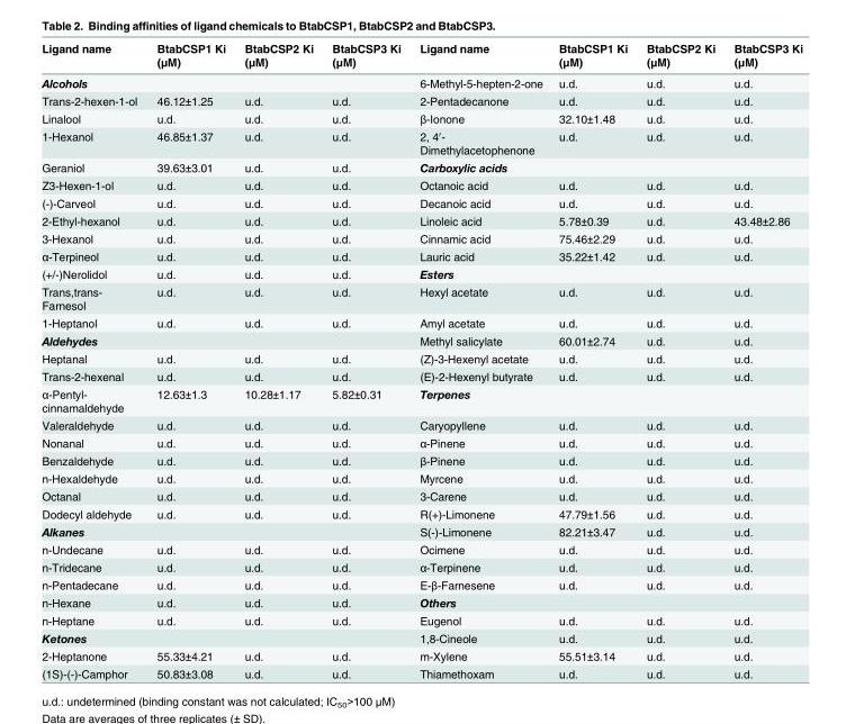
<table><thead><tr><td>Ligand name</td><td>BtabCSP1 Ki (μM)</td><td>BtabCSP2 Ki (μM)</td><td>BtabCSP3 Ki (μM)</td><td>Ligand name</td><td>BtabCSP1 Ki (μM)</td><td>BtabCSP2 Ki (μM)</td><td>BtabCSP3 Ki (μM)</td></tr></thead><tbody><tr><td>Alcohols</td><td></td><td></td><td></td><td>6-Methyl-5-hepten-2-one</td><td>u.d.</td><td>u.d.</td><td>u.d.</td></tr><tr><td>Trans-2-hexen-1-ol</td><td>46.12±1.25</td><td>u.d.</td><td>u.d.</td><td>2-Pentadecanone</td><td>u.d.</td><td>u.d.</td><td>u.d.</td></tr><tr><td>Linalool</td><td>u.d.</td><td>u.d.</td><td>u.d.</td><td>β-Ionone</td><td>32.10±1.48</td><td>u.d.</td><td>u.d.</td></tr><tr><td>1-Hexanol</td><td>46.85±1.37</td><td>u.d.</td><td>u.d.</td><td>2, 4′- Dimethylacetophenone</td><td>u.d.</td><td>u.d.</td><td>u.d.</td></tr><tr><td>Geraniol</td><td>39.63±3.01</td><td>u.d.</td><td>u.d.</td><td>Carboxylic acids</td><td></td><td></td><td></td></tr><tr><td>Z3-Hexen-1-ol</td><td>u.d.</td><td>u.d.</td><td>u.d.</td><td>Octanoic acid</td><td>u.d.</td><td>u.d.</td><td>u.d.</td></tr><tr><td>(-)-Carveol</td><td>u.d.</td><td>u.d.</td><td>u.d.</td><td>Decanoic acid</td><td>u.d.</td><td>u.d.</td><td>u.d.</td></tr><tr><td>2-Ethyl-hexanol</td><td>u.d.</td><td>u.d.</td><td>u.d.</td><td>Linoleic acid</td><td>5.78±0.39</td><td>u.d.</td><td>43.48±2.86</td></tr><tr><td>3-Hexanol</td><td>u.d.</td><td>u.d.</td><td>u.d.</td><td>Cinnamic acid</td><td>75.46±2.29</td><td>u.d.</td><td>u.d.</td></tr><tr><td>α-Terpineol</td><td>u.d.</td><td>u.d.</td><td>u.d.</td><td>Lauric acid</td><td>35.22±1.42</td><td>u.d.</td><td>u.d.</td></tr><tr><td>(+/-)Nerolidol</td><td>u.d.</td><td>u.d.</td><td>u.d.</td><td>Esters</td><td></td><td></td><td></td></tr><tr><td>Trans,trans- Farnesol</td><td>u.d.</td><td>u.d.</td><td>u.d.</td><td>Hexyl acetate</td><td>u.d.</td><td>u.d.</td><td>u.d.</td></tr><tr><td>1-Heptanol</td><td>u.d.</td><td>u.d.</td><td>u.d.</td><td>Amyl acetate</td><td>u.d.</td><td>u.d.</td><td>u.d.</td></tr><tr><td>Aldehydes</td><td></td><td></td><td></td><td>Methyl salicylate</td><td>60.01±2.74</td><td>u.d.</td><td>u.d.</td></tr><tr><td>Heptanal</td><td>u.d.</td><td>u.d.</td><td>u.d.</td><td>(Z)-3-Hexenyl acetate</td><td>u.d.</td><td>u.d.</td><td>u.d.</td></tr><tr><td>Trans-2-hexenal</td><td>u.d.</td><td>u.d.</td><td>u.d.</td><td>(E)-2-Hexenyl butyrate</td><td>u.d.</td><td>u.d.</td><td>u.d.</td></tr><tr><td>α-Pentyl- cinnamaldehyde</td><td>12.63±1.3</td><td>10.28±1.17</td><td>5.82±0.31</td><td>Terpenes</td><td></td><td></td><td></td></tr><tr><td>Valeraldehyde</td><td>u.d.</td><td>u.d.</td><td>u.d.</td><td>Caryopyllene</td><td>u.d.</td><td>u.d.</td><td>u.d.</td></tr><tr><td>Nonanal</td><td>u.d.</td><td>u.d.</td><td>u.d.</td><td>α-Pinene</td><td>u.d.</td><td>u.d.</td><td>u.d.</td></tr><tr><td>Benzaldehyde</td><td>u.d.</td><td>u.d.</td><td>u.d.</td><td>β-Pinene</td><td>u.d.</td><td>u.d.</td><td>u.d.</td></tr><tr><td>n-Hexaldehyde</td><td>u.d.</td><td>u.d.</td><td>u.d.</td><td>Myrcene</td><td>u.d.</td><td>u.d.</td><td>u.d.</td></tr><tr><td>Octanal</td><td>u.d.</td><td>u.d.</td><td>u.d.</td><td>3-Carene</td><td>u.d.</td><td>u.d.</td><td>u.d.</td></tr><tr><td>Dodecyl aldehyde</td><td>u.d.</td><td>u.d.</td><td>u.d.</td><td>R(+)-Limonene</td><td>47.79±1.56</td><td>u.d.</td><td>u.d.</td></tr><tr><td>Alkanes</td><td></td><td></td><td></td><td>S(-)-Limonene</td><td>82.21±3.47</td><td>u.d.</td><td>u.d.</td></tr><tr><td>n-Undecane</td><td>u.d.</td><td>u.d.</td><td>u.d.</td><td>Ocimene</td><td>u.d.</td><td>u.d.</td><td>u.d.</td></tr><tr><td>n-Tridecane</td><td>u.d.</td><td>u.d.</td><td>u.d.</td><td>α-Terpinene</td><td>u.d.</td><td>u.d.</td><td>u.d.</td></tr><tr><td>n-Pentadecane</td><td>u.d.</td><td>u.d.</td><td>u.d.</td><td>E-β-Farnesene</td><td>u.d.</td><td>u.d.</td><td>u.d.</td></tr><tr><td>n-Hexane</td><td>u.d.</td><td>u.d.</td><td>u.d.</td><td>Others</td><td></td><td></td><td></td></tr><tr><td>n-Heptane</td><td>u.d.</td><td>u.d.</td><td>u.d.</td><td>Eugenol</td><td>u.d.</td><td>u.d.</td><td>u.d.</td></tr><tr><td>Ketones</td><td></td><td></td><td></td><td>1,8-Cineole</td><td>u.d.</td><td>u.d.</td><td>u.d.</td></tr><tr><td>2-Heptanone</td><td>55.33±4.21</td><td>u.d.</td><td>u.d.</td><td>m-Xylene</td><td>55.51±3.14</td><td>u.d.</td><td>u.d.</td></tr><tr><td>(1S)-(-)-Camphor</td><td>50.83±3.08</td><td>u.d.</td><td>u.d.</td><td>Thiamethoxam</td><td>u.d.</td><td>u.d.</td><td>u.d.</td></tr></tbody></table>